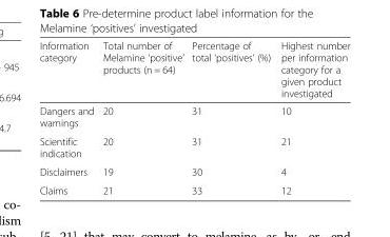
<table><thead><tr><td>Information category</td><td>Total number of Melamine ‘positive’ products (n = 64)</td><td>Percentage of total ‘positives’ (%)</td><td>Highest number per information category for a given product investigated</td></tr></thead><tbody><tr><td>Dangers and warnings</td><td>20</td><td>31</td><td>10</td></tr><tr><td>Scientific indication</td><td>20</td><td>31</td><td>21</td></tr><tr><td>Disclaimers</td><td>19</td><td>30</td><td>4</td></tr><tr><td>Claims</td><td>21</td><td>33</td><td>12</td></tr></tbody></table>